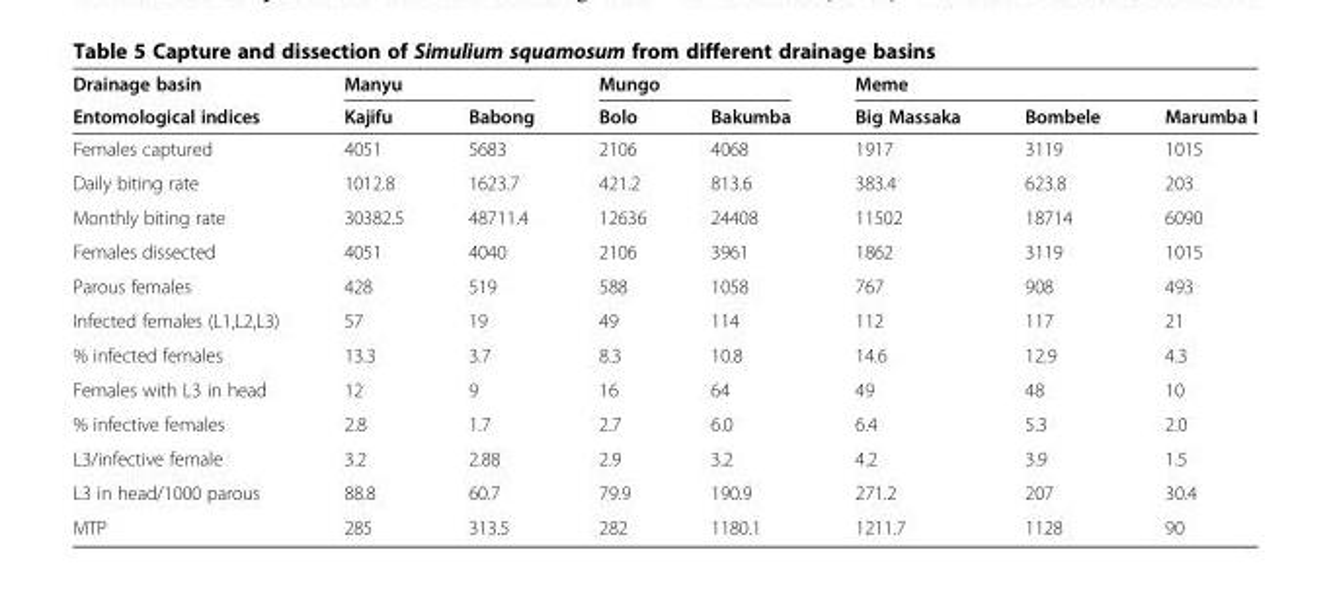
<table><thead><tr><td rowspan="2">Drainage basin Entomological indices</td><td colspan="2">Manyu</td><td colspan="2">Mungo</td><td colspan="3">Meme</td></tr><tr><td>Kajifu</td><td>Babong</td><td>Bolo</td><td>Bakumba</td><td>Big Massaka</td><td>Bombele</td><td>Marumba I</td></tr></thead><tbody><tr><td>Females captured</td><td>4051</td><td>5683</td><td>2106</td><td>4068</td><td>1917</td><td>3119</td><td>1015</td></tr><tr><td>Daily biting rate</td><td>1012.8</td><td>1623.7</td><td>421.2</td><td>813.6</td><td>383.4</td><td>623.8</td><td>203</td></tr><tr><td>Monthly biting rate</td><td>30382.5</td><td>48711.4</td><td>12636</td><td>24408</td><td>11502</td><td>18714</td><td>6090</td></tr><tr><td>Females dissected</td><td>4051</td><td>4040</td><td>2106</td><td>3961</td><td>1862</td><td>3119</td><td>1015</td></tr><tr><td>Parous females</td><td>428</td><td>519</td><td>588</td><td>1058</td><td>767</td><td>908</td><td>493</td></tr><tr><td>Infected females (L1,L2,L3)</td><td>57</td><td>19</td><td>49</td><td>114</td><td>112</td><td>117</td><td>21</td></tr><tr><td>% infected females</td><td>13.3</td><td>3.7</td><td>8.3</td><td>10.8</td><td>14.6</td><td>12.9</td><td>4.3</td></tr><tr><td>Females with L3 in head</td><td>12</td><td>9</td><td>16</td><td>64</td><td>49</td><td>48</td><td>10</td></tr><tr><td>% infective females</td><td>2.8</td><td>1.7</td><td>2.7</td><td>6.0</td><td>6.4</td><td>5.3</td><td>2.0</td></tr><tr><td>L3/infective female</td><td>3.2</td><td>2.88</td><td>2.9</td><td>3.2</td><td>4.2</td><td>3.9</td><td>1.5</td></tr><tr><td>L3 in head/1000 parous</td><td>88.8</td><td>60.7</td><td>79.9</td><td>190.9</td><td>271.2</td><td>207</td><td>30.4</td></tr><tr><td>MTP</td><td>285</td><td>313.5</td><td>282</td><td>1180.1</td><td>1211.7</td><td>1128</td><td>90</td></tr></tbody></table>